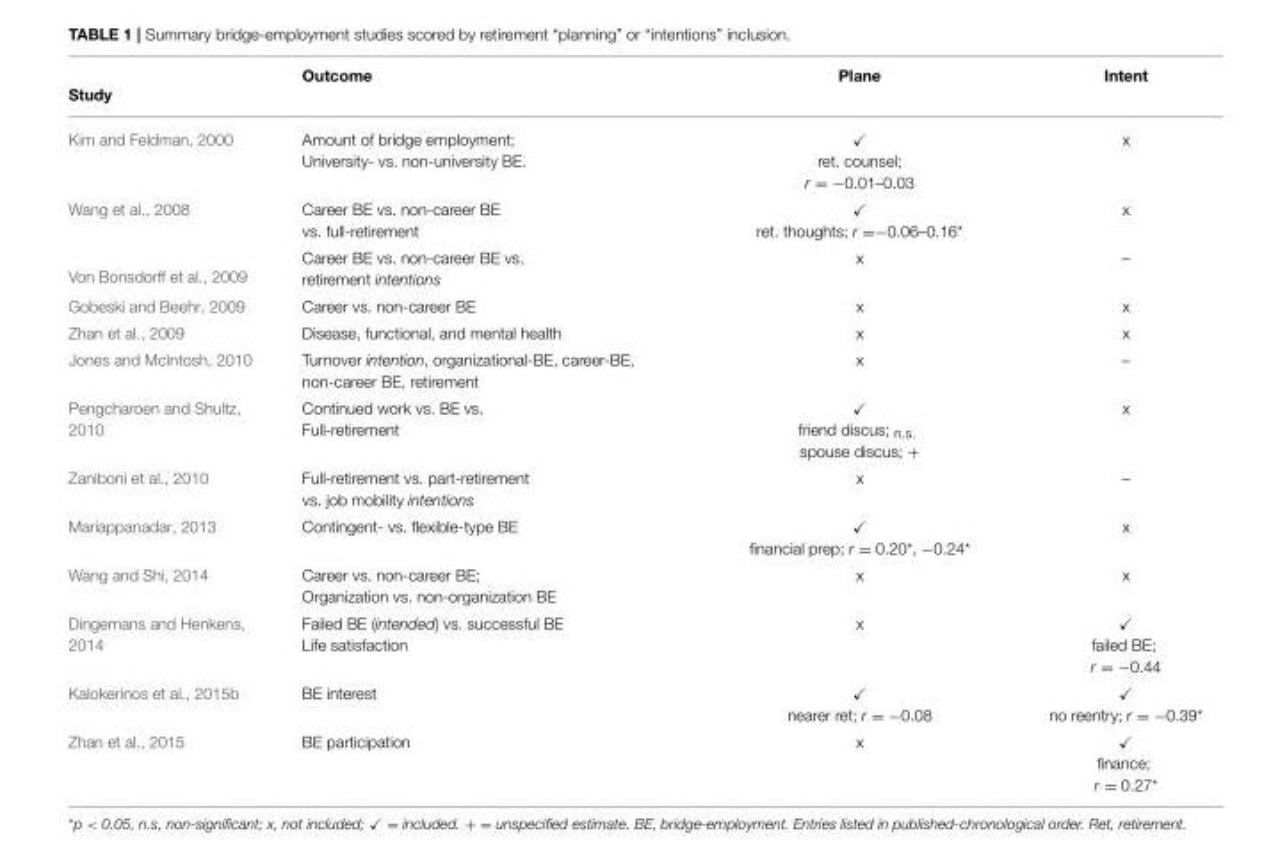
<table><thead><tr><td>Study</td><td>Outcome</td><td>Plane</td><td>Intent</td></tr></thead><tbody><tr><td>Kim and Feldman, 2000</td><td>Amount of bridge employment; University- vs. non-university BE.</td><td>✓ ret. counsel; r = −0.01–0.03</td><td>x</td></tr><tr><td>Wang et al., 2008</td><td>Career BE vs. non-career BE vs. full-retirement</td><td>✓ ret. thoughts; r =−0.06–0.16*</td><td>x</td></tr><tr><td>Von Bonsdorff et al., 2009</td><td>Career BE vs. non-career BE vs. retirement intentions</td><td>x</td><td>–</td></tr><tr><td>Gobeski and Beehr, 2009</td><td>Career vs. non-career BE</td><td>x</td><td>x</td></tr><tr><td>Zhan et al., 2009</td><td>Disease, functional, and mental health</td><td>x</td><td>x</td></tr><tr><td>Jones and McIntosh, 2010</td><td>Turnover intention, organizational-BE, career-BE, non-career BE, retirement</td><td>x</td><td>–</td></tr><tr><td>Pengcharoen and Shultz, 2010</td><td>Continued work vs. BE vs. Full-retirement</td><td>✓ friend discus; <sub>n.s.</sub> spouse discus; +</td><td>x</td></tr><tr><td>Zaniboni et al., 2010</td><td>Full-retirement vs. part-retirement vs. job mobility intentions</td><td>x</td><td>–</td></tr><tr><td>Mariappanadar, 2013</td><td>Contingent- vs. flexible-type BE</td><td>✓ financial prep; r = 0.20*, −0.24*</td><td>x</td></tr><tr><td>Wang and Shi, 2014</td><td>Career vs. non-career BE; Organization vs. non-organization BE</td><td>x</td><td>x</td></tr><tr><td>Dingemans and Henkens, 2014</td><td>Failed BE (intended) vs. successful BE Life satisfaction</td><td>x</td><td>✓ failed BE; r = −0.44</td></tr><tr><td>Kalokerinos et al., 2015b</td><td>BE interest</td><td>✓ nearer ret; r = −0.08</td><td>✓ no reentry; r = −0.39*</td></tr><tr><td>Zhan et al., 2015</td><td>BE participation</td><td>x</td><td>✓ finance; r = 0.27*</td></tr></tbody></table>